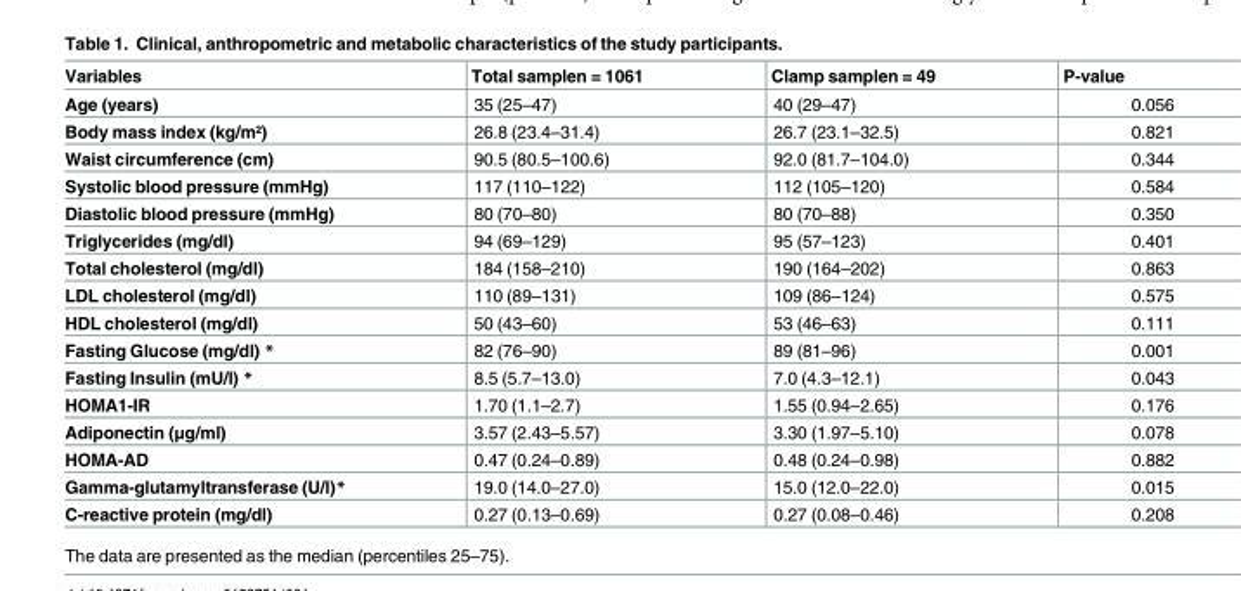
<table><thead><tr><td>Variables</td><td>Total samplen = 1061</td><td>Clamp samplen = 49</td><td>P-value</td></tr></thead><tbody><tr><td>Age (years)</td><td>35 (25–47)</td><td>40 (29–47)</td><td>0.056</td></tr><tr><td>Body mass index (kg/m²)</td><td>26.8 (23.4–31.4)</td><td>26.7 (23.1–32.5)</td><td>0.821</td></tr><tr><td>Waist circumference (cm)</td><td>90.5 (80.5–100.6)</td><td>92.0 (81.7–104.0)</td><td>0.344</td></tr><tr><td>Systolic blood pressure (mmHg)</td><td>117 (110–122)</td><td>112 (105–120)</td><td>0.584</td></tr><tr><td>Diastolic blood pressure (mmHg)</td><td>80 (70–80)</td><td>80 (70–88)</td><td>0.350</td></tr><tr><td>Triglycerides (mg/dl)</td><td>94 (69–129)</td><td>95 (57–123)</td><td>0.401</td></tr><tr><td>Total cholesterol (mg/dl)</td><td>184 (158–210)</td><td>190 (164–202)</td><td>0.863</td></tr><tr><td>LDL cholesterol (mg/dl)</td><td>110 (89–131)</td><td>109 (86–124)</td><td>0.575</td></tr><tr><td>HDL cholesterol (mg/dl)</td><td>50 (43–60)</td><td>53 (46–63)</td><td>0.111</td></tr><tr><td>Fasting Glucose (mg/dl) *</td><td>82 (76–90)</td><td>89 (81–96)</td><td>0.001</td></tr><tr><td>Fasting Insulin (mU/l) *</td><td>8.5 (5.7–13.0)</td><td>7.0 (4.3–12.1)</td><td>0.043</td></tr><tr><td>HOMA1-IR</td><td>1.70 (1.1–2.7)</td><td>1.55 (0.94–2.65)</td><td>0.176</td></tr><tr><td>Adiponectin (μg/ml)</td><td>3.57 (2.43–5.57)</td><td>3.30 (1.97–5.10)</td><td>0.078</td></tr><tr><td>HOMA-AD</td><td>0.47 (0.24–0.89)</td><td>0.48 (0.24–0.98)</td><td>0.882</td></tr><tr><td>Gamma-glutamyltransferase (U/l)*</td><td>19.0 (14.0–27.0)</td><td>15.0 (12.0–22.0)</td><td>0.015</td></tr><tr><td>C-reactive protein (mg/dl)</td><td>0.27 (0.13–0.69)</td><td>0.27 (0.08–0.46)</td><td>0.208</td></tr></tbody></table>